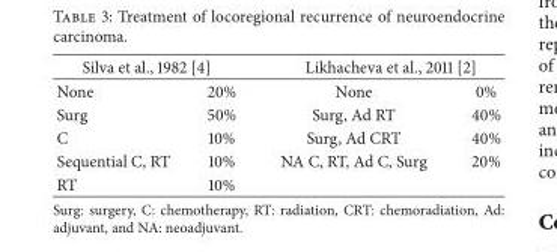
<table><thead><tr><td colspan="2">Silva et al., 1982 [4]</td><td colspan="2">Likhacheva et al., 2011 [2]</td></tr><tr><td>None</td><td>20%</td><td>None</td><td>0%</td></tr></thead><tbody><tr><td>Surg</td><td>50%</td><td>Surg, Ad RT</td><td>40%</td></tr><tr><td>C</td><td>10%</td><td>Surg, Ad CRT</td><td>40%</td></tr><tr><td>Sequential C, RT</td><td>10%</td><td>NA C, RT, Ad C, Surg</td><td>20%</td></tr><tr><td>RT</td><td>10%</td><td></td><td></td></tr></tbody></table>